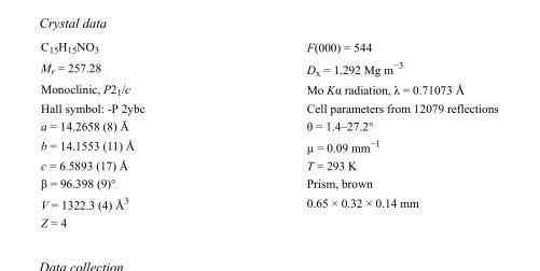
<table><tbody><tr><td>C<sub>15</sub>H<sub>15</sub>NO<sub>3</sub></td><td>F(000) = 544</td></tr><tr><td>M<sub>r</sub> = 257.28</td><td>D<sub>x</sub> = 1.292 Mg m<sup>−3</sup></td></tr><tr><td>Monoclinic, P2<sub>1</sub>/c</td><td>Mo Kα radiation, λ = 0.71073 Å</td></tr><tr><td>Hall symbol: -P 2ybc</td><td>Cell parameters from 12079 reflections</td></tr><tr><td>a = 14.2658 (8) Å</td><td>θ = 1.4–27.2°</td></tr><tr><td>b = 14.1553 (11) Å</td><td>µ = 0.09 mm<sup>−1</sup></td></tr><tr><td>c = 6.5893 (17) Å</td><td>T = 293 K</td></tr><tr><td>β = 96.398 (9)°</td><td>Prism, brown</td></tr><tr><td>V = 1322.3 (4) Å<sup>3</sup></td><td>0.65 × 0.32 × 0.14 mm</td></tr><tr><td>Z = 4</td><td></td></tr></tbody></table>